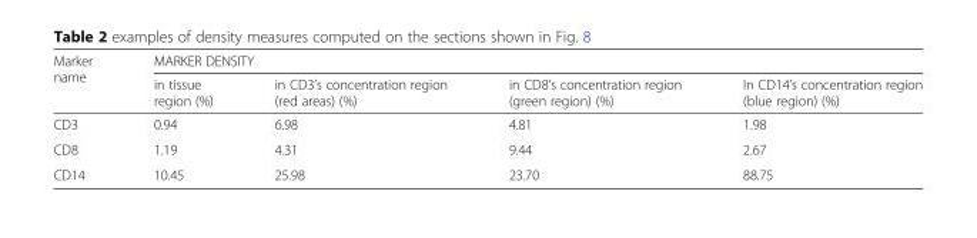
<table><thead><tr><td rowspan="2">Marker name</td><td colspan="4">MARKER DENSITY</td></tr><tr><td>in tissue region (%)</td><td>in CD3’s concentration region (red areas) (%)</td><td>in CD8’s concentration region (green region) (%)</td><td>In CD14’s concentration region (blue region) (%)</td></tr></thead><tbody><tr><td>CD3</td><td>0.94</td><td>6.98</td><td>4.81</td><td>1.98</td></tr><tr><td>CD8</td><td>1.19</td><td>4.31</td><td>9.44</td><td>2.67</td></tr><tr><td>CD14</td><td>10.45</td><td>25.98</td><td>23.70</td><td>88.75</td></tr></tbody></table>